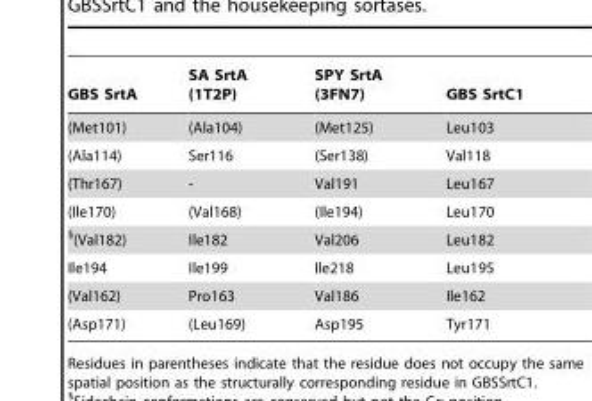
<table><thead><tr><td>GBS SrtA</td><td>SA SrtA (1T2P)</td><td>SPY SrtA (3FN7)</td><td>GBS SrtC1</td></tr></thead><tbody><tr><td>(Met101)</td><td>(Ala104)</td><td>(Met125)</td><td>Leu103</td></tr><tr><td>(Ala114)</td><td>Ser116</td><td>(Ser138)</td><td>Val118</td></tr><tr><td>(Thr167)</td><td>-</td><td>Val191</td><td>Leu167</td></tr><tr><td>(Ile170)</td><td>(Val168)</td><td>(Ile194)</td><td>Leu170</td></tr><tr><td>§(Val182)</td><td>Ile182</td><td>Val206</td><td>Leu182</td></tr><tr><td>Ile194</td><td>Ile199</td><td>Ile218</td><td>Leu195</td></tr><tr><td>(Val162)</td><td>Pro163</td><td>Val186</td><td>Ile162</td></tr><tr><td>(Asp171)</td><td>(Leu169)</td><td>Asp195</td><td>Tyr171</td></tr></tbody></table>